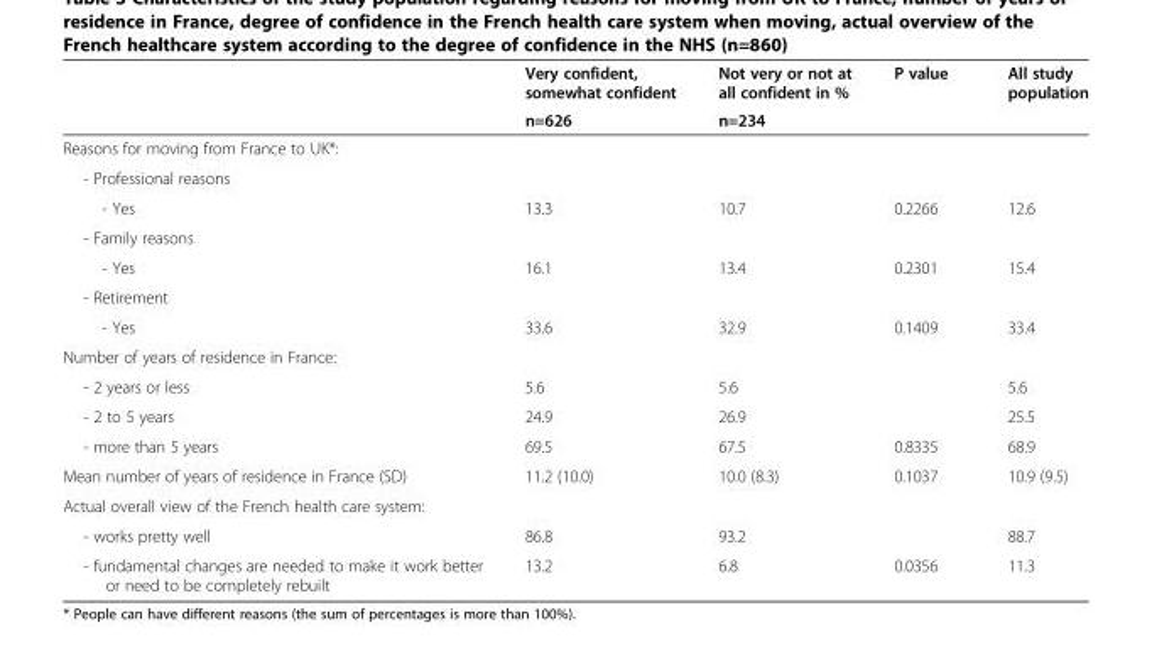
<table><thead><tr><td rowspan="2"></td><td rowspan="2">Very confident, somewhat confident n=626</td><td rowspan="2">Not very or not at all confident in % n=234</td><td rowspan="2">P value</td><td rowspan="2">All study population</td></tr><tr></tr></thead><tbody><tr><td colspan="5">Reasons for moving from France to UK*:</td></tr><tr><td colspan="5">- Professional reasons</td></tr><tr><td>- Yes</td><td>13.3</td><td>10.7</td><td>0.2266</td><td>12.6</td></tr><tr><td colspan="5">- Family reasons</td></tr><tr><td>- Yes</td><td>16.1</td><td>13.4</td><td>0.2301</td><td>15.4</td></tr><tr><td colspan="5">- Retirement</td></tr><tr><td>- Yes</td><td>33.6</td><td>32.9</td><td>0.1409</td><td>33.4</td></tr><tr><td colspan="5">Number of years of residence in France:</td></tr><tr><td>- 2 years or less</td><td>5.6</td><td>5.6</td><td></td><td>5.6</td></tr><tr><td>- 2 to 5 years</td><td>24.9</td><td>26.9</td><td></td><td>25.5</td></tr><tr><td>- more than 5 years</td><td>69.5</td><td>67.5</td><td>0.8335</td><td>68.9</td></tr><tr><td>Mean number of years of residence in France (SD)</td><td>11.2 (10.0)</td><td>10.0 (8.3)</td><td>0.1037</td><td>10.9 (9.5)</td></tr><tr><td colspan="5">Actual overall view of the French health care system:</td></tr><tr><td>- works pretty well</td><td>86.8</td><td>93.2</td><td></td><td>88.7</td></tr><tr><td>- fundamental changes are needed to make it work better or need to be completely rebuilt</td><td>13.2</td><td>6.8</td><td>0.0356</td><td>11.3</td></tr></tbody></table>